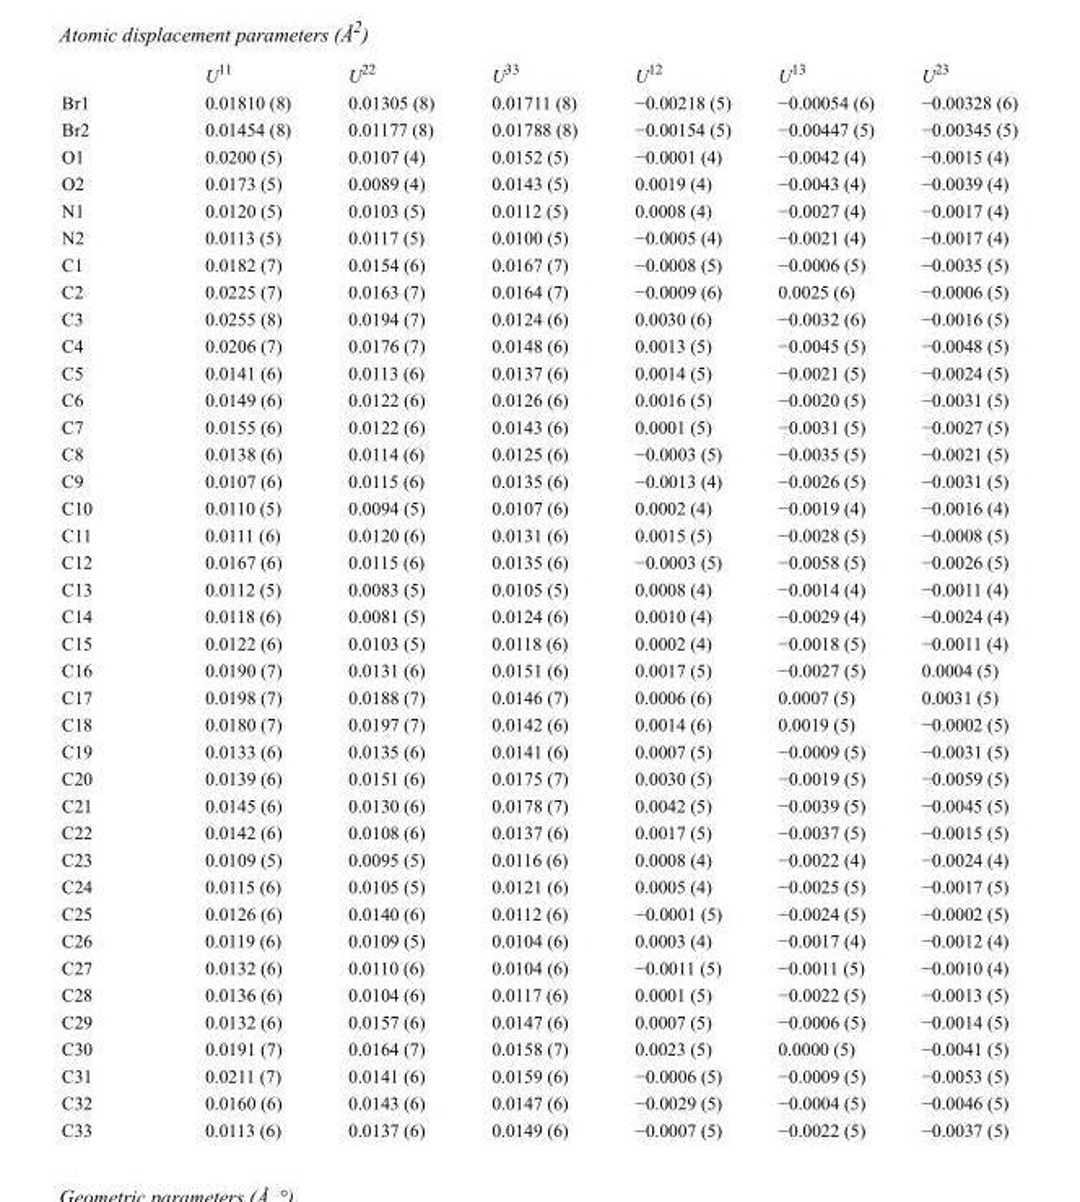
<table><thead><tr><td></td><td>U<sup>11</sup></td><td>U<sup>22</sup></td><td>U<sup>33</sup></td><td>U<sup>12</sup></td><td>U<sup>13</sup></td><td>U<sup>23</sup></td></tr></thead><tbody><tr><td>Br1</td><td>0.01810 (8)</td><td>0.01305 (8)</td><td>0.01711 (8)</td><td>−0.00218 (5)</td><td>−0.00054 (6)</td><td>−0.00328 (6)</td></tr><tr><td>Br2</td><td>0.01454 (8)</td><td>0.01177 (8)</td><td>0.01788 (8)</td><td>−0.00154 (5)</td><td>−0.00447 (5)</td><td>−0.00345 (5)</td></tr><tr><td>O1</td><td>0.0200 (5)</td><td>0.0107 (4)</td><td>0.0152 (5)</td><td>−0.0001 (4)</td><td>−0.0042 (4)</td><td>−0.0015 (4)</td></tr><tr><td>O2</td><td>0.0173 (5)</td><td>0.0089 (4)</td><td>0.0143 (5)</td><td>0.0019 (4)</td><td>−0.0043 (4)</td><td>−0.0039 (4)</td></tr><tr><td>N1</td><td>0.0120 (5)</td><td>0.0103 (5)</td><td>0.0112 (5)</td><td>0.0008 (4)</td><td>−0.0027 (4)</td><td>−0.0017 (4)</td></tr><tr><td>N2</td><td>0.0113 (5)</td><td>0.0117 (5)</td><td>0.0100 (5)</td><td>−0.0005 (4)</td><td>−0.0021 (4)</td><td>−0.0017 (4)</td></tr><tr><td>C1</td><td>0.0182 (7)</td><td>0.0154 (6)</td><td>0.0167 (7)</td><td>−0.0008 (5)</td><td>−0.0006 (5)</td><td>−0.0035 (5)</td></tr><tr><td>C2</td><td>0.0225 (7)</td><td>0.0163 (7)</td><td>0.0164 (7)</td><td>−0.0009 (6)</td><td>0.0025 (6)</td><td>−0.0006 (5)</td></tr><tr><td>C3</td><td>0.0255 (8)</td><td>0.0194 (7)</td><td>0.0124 (6)</td><td>0.0030 (6)</td><td>−0.0032 (6)</td><td>−0.0016 (5)</td></tr><tr><td>C4</td><td>0.0206 (7)</td><td>0.0176 (7)</td><td>0.0148 (6)</td><td>0.0013 (5)</td><td>−0.0045 (5)</td><td>−0.0048 (5)</td></tr><tr><td>C5</td><td>0.0141 (6)</td><td>0.0113 (6)</td><td>0.0137 (6)</td><td>0.0014 (5)</td><td>−0.0021 (5)</td><td>−0.0024 (5)</td></tr><tr><td>C6</td><td>0.0149 (6)</td><td>0.0122 (6)</td><td>0.0126 (6)</td><td>0.0016 (5)</td><td>−0.0020 (5)</td><td>−0.0031 (5)</td></tr><tr><td>C7</td><td>0.0155 (6)</td><td>0.0122 (6)</td><td>0.0143 (6)</td><td>0.0001 (5)</td><td>−0.0031 (5)</td><td>−0.0027 (5)</td></tr><tr><td>C8</td><td>0.0138 (6)</td><td>0.0114 (6)</td><td>0.0125 (6)</td><td>−0.0003 (5)</td><td>−0.0035 (5)</td><td>−0.0021 (5)</td></tr><tr><td>C9</td><td>0.0107 (6)</td><td>0.0115 (6)</td><td>0.0135 (6)</td><td>−0.0013 (4)</td><td>−0.0026 (5)</td><td>−0.0031 (5)</td></tr><tr><td>C10</td><td>0.0110 (5)</td><td>0.0094 (5)</td><td>0.0107 (6)</td><td>0.0002 (4)</td><td>−0.0019 (4)</td><td>−0.0016 (4)</td></tr><tr><td>C11</td><td>0.0111 (6)</td><td>0.0120 (6)</td><td>0.0131 (6)</td><td>0.0015 (5)</td><td>−0.0028 (5)</td><td>−0.0008 (5)</td></tr><tr><td>C12</td><td>0.0167 (6)</td><td>0.0115 (6)</td><td>0.0135 (6)</td><td>−0.0003 (5)</td><td>−0.0058 (5)</td><td>−0.0026 (5)</td></tr><tr><td>C13</td><td>0.0112 (5)</td><td>0.0083 (5)</td><td>0.0105 (5)</td><td>0.0008 (4)</td><td>−0.0014 (4)</td><td>−0.0011 (4)</td></tr><tr><td>C14</td><td>0.0118 (6)</td><td>0.0081 (5)</td><td>0.0124 (6)</td><td>0.0010 (4)</td><td>−0.0029 (4)</td><td>−0.0024 (4)</td></tr><tr><td>C15</td><td>0.0122 (6)</td><td>0.0103 (5)</td><td>0.0118 (6)</td><td>0.0002 (4)</td><td>−0.0018 (5)</td><td>−0.0011 (4)</td></tr><tr><td>C16</td><td>0.0190 (7)</td><td>0.0131 (6)</td><td>0.0151 (6)</td><td>0.0017 (5)</td><td>−0.0027 (5)</td><td>0.0004 (5)</td></tr><tr><td>C17</td><td>0.0198 (7)</td><td>0.0188 (7)</td><td>0.0146 (7)</td><td>0.0006 (6)</td><td>0.0007 (5)</td><td>0.0031 (5)</td></tr><tr><td>C18</td><td>0.0180 (7)</td><td>0.0197 (7)</td><td>0.0142 (6)</td><td>0.0014 (6)</td><td>0.0019 (5)</td><td>−0.0002 (5)</td></tr><tr><td>C19</td><td>0.0133 (6)</td><td>0.0135 (6)</td><td>0.0141 (6)</td><td>0.0007 (5)</td><td>−0.0009 (5)</td><td>−0.0031 (5)</td></tr><tr><td>C20</td><td>0.0139 (6)</td><td>0.0151 (6)</td><td>0.0175 (7)</td><td>0.0030 (5)</td><td>−0.0019 (5)</td><td>−0.0059 (5)</td></tr><tr><td>C21</td><td>0.0145 (6)</td><td>0.0130 (6)</td><td>0.0178 (7)</td><td>0.0042 (5)</td><td>−0.0039 (5)</td><td>−0.0045 (5)</td></tr><tr><td>C22</td><td>0.0142 (6)</td><td>0.0108 (6)</td><td>0.0137 (6)</td><td>0.0017 (5)</td><td>−0.0037 (5)</td><td>−0.0015 (5)</td></tr><tr><td>C23</td><td>0.0109 (5)</td><td>0.0095 (5)</td><td>0.0116 (6)</td><td>0.0008 (4)</td><td>−0.0022 (4)</td><td>−0.0024 (4)</td></tr><tr><td>C24</td><td>0.0115 (6)</td><td>0.0105 (5)</td><td>0.0121 (6)</td><td>0.0005 (4)</td><td>−0.0025 (5)</td><td>−0.0017 (5)</td></tr><tr><td>C25</td><td>0.0126 (6)</td><td>0.0140 (6)</td><td>0.0112 (6)</td><td>−0.0001 (5)</td><td>−0.0024 (5)</td><td>−0.0002 (5)</td></tr><tr><td>C26</td><td>0.0119 (6)</td><td>0.0109 (5)</td><td>0.0104 (6)</td><td>0.0003 (4)</td><td>−0.0017 (4)</td><td>−0.0012 (4)</td></tr><tr><td>C27</td><td>0.0132 (6)</td><td>0.0110 (6)</td><td>0.0104 (6)</td><td>−0.0011 (5)</td><td>−0.0011 (5)</td><td>−0.0010 (4)</td></tr><tr><td>C28</td><td>0.0136 (6)</td><td>0.0104 (6)</td><td>0.0117 (6)</td><td>0.0001 (5)</td><td>−0.0022 (5)</td><td>−0.0013 (5)</td></tr><tr><td>C29</td><td>0.0132 (6)</td><td>0.0157 (6)</td><td>0.0147 (6)</td><td>0.0007 (5)</td><td>−0.0006 (5)</td><td>−0.0014 (5)</td></tr><tr><td>C30</td><td>0.0191 (7)</td><td>0.0164 (7)</td><td>0.0158 (7)</td><td>0.0023 (5)</td><td>0.0000 (5)</td><td>−0.0041 (5)</td></tr><tr><td>C31</td><td>0.0211 (7)</td><td>0.0141 (6)</td><td>0.0159 (6)</td><td>−0.0006 (5)</td><td>−0.0009 (5)</td><td>−0.0053 (5)</td></tr><tr><td>C32</td><td>0.0160 (6)</td><td>0.0143 (6)</td><td>0.0147 (6)</td><td>−0.0029 (5)</td><td>−0.0004 (5)</td><td>−0.0046 (5)</td></tr><tr><td>C33</td><td>0.0113 (6)</td><td>0.0137 (6)</td><td>0.0149 (6)</td><td>−0.0007 (5)</td><td>−0.0022 (5)</td><td>−0.0037 (5)</td></tr></tbody></table>